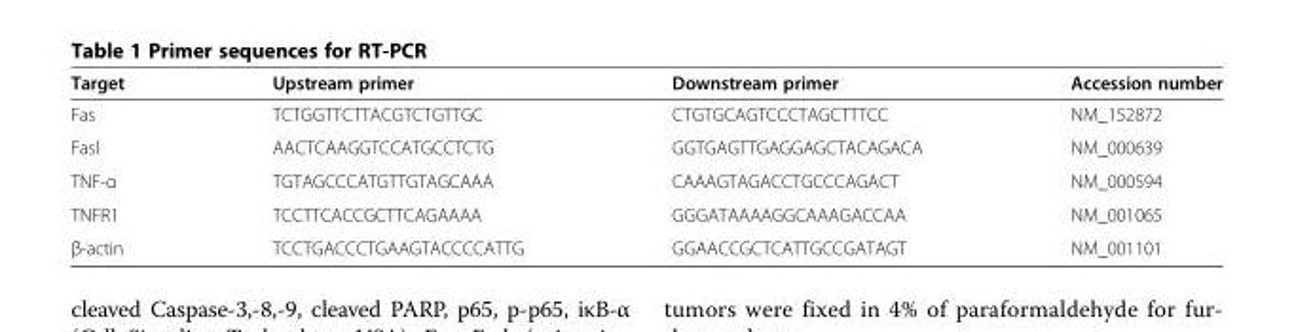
<table><thead><tr><td>Target</td><td>Upstream primer</td><td>Downstream primer</td><td>Accession number</td></tr></thead><tbody><tr><td>Fas</td><td>TCTGGTTCTTACGTCTGTTGC</td><td>CTGTGCAGTCCCTAGCTTTCC</td><td>NM_152872</td></tr><tr><td>Fasl</td><td>AACTCAAGGTCCATGCCTCTG</td><td>GGTGAGTTGAGGAGCTACAGACA</td><td>NM_000639</td></tr><tr><td>TNF-α</td><td>TGTAGCCCATGTTGTAGCAAA</td><td>CAAAGTAGACCTGCCCAGACT</td><td>NM_000594</td></tr><tr><td>TNFR1</td><td>TCCTTCACCGCTTCAGAAAA</td><td>GGGATAAAAGGCAAAGACCAA</td><td>NM_001065</td></tr><tr><td>β-actin</td><td>TCCTGACCCTGAAGTACCCCATTG</td><td>GGAACCGCTCATTGCCGATAGT</td><td>NM_001101</td></tr></tbody></table>